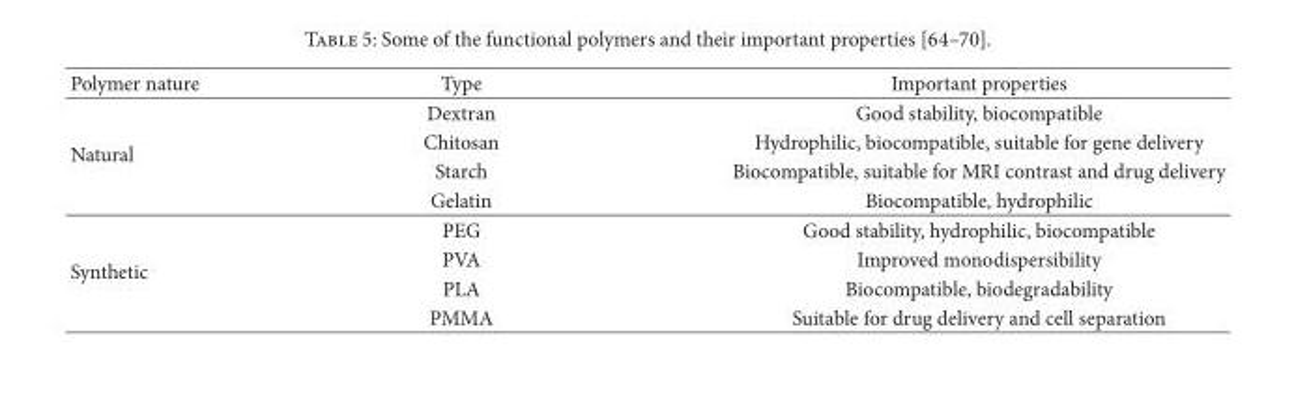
<table><thead><tr><td>Polymer nature</td><td>Type</td><td>Important properties</td></tr></thead><tbody><tr><td rowspan="4">Natural</td><td>Dextran</td><td>Good stability, biocompatible</td></tr><tr><td>Chitosan</td><td>Hydrophilic, biocompatible, suitable for gene delivery</td></tr><tr><td>Starch</td><td>Biocompatible, suitable for MRI contrast and drug delivery</td></tr><tr><td>Gelatin</td><td>Biocompatible, hydrophilic</td></tr><tr><td rowspan="4">Synthetic</td><td>PEG</td><td>Good stability, hydrophilic, biocompatible</td></tr><tr><td>PVA</td><td>Improved monodispersibility</td></tr><tr><td>PLA</td><td>Biocompatible, biodegradability</td></tr><tr><td>PMMA</td><td>Suitable for drug delivery and cell separation</td></tr></tbody></table>